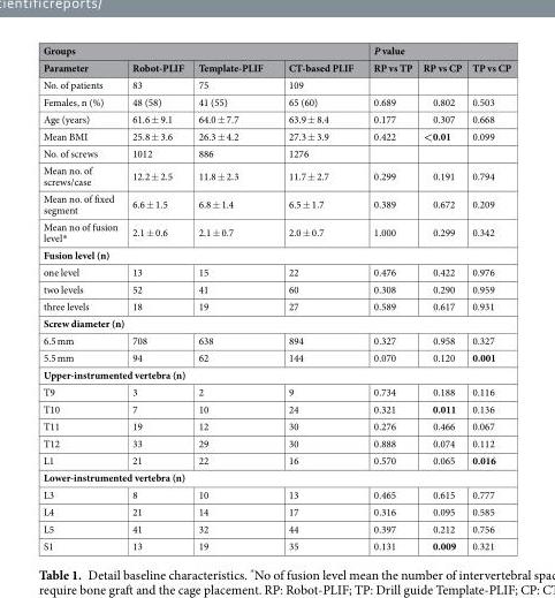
<table><thead><tr><td colspan="4">Groups</td><td colspan="3">P value</td></tr><tr><td>Parameter</td><td>Robot-PLIF</td><td>Template-PLIF</td><td>CT-based PLIF</td><td>RP vs TP</td><td>RP vs CP</td><td>TP vs CP</td></tr></thead><tbody><tr><td>No. of patients</td><td>83</td><td>75</td><td>109</td><td></td><td></td><td></td></tr><tr><td>Females, n (%)</td><td>48 (58)</td><td>41 (55)</td><td>65 (60)</td><td>0.689</td><td>0.802</td><td>0.503</td></tr><tr><td>Age (years)</td><td>61.6 ± 9.1</td><td>64.0 ± 7.7</td><td>63.9 ± 8.4</td><td>0.177</td><td>0.307</td><td>0.668</td></tr><tr><td>Mean BMI</td><td>25.8 ± 3.6</td><td>26.3 ± 4.2</td><td>27.3 ± 3.9</td><td>0.422</td><td>&lt;0.01</td><td>0.099</td></tr><tr><td>No. of screws</td><td>1012</td><td>886</td><td>1276</td><td></td><td></td><td></td></tr><tr><td>Mean no. of screws/case</td><td>12.2 ± 2.5</td><td>11.8 ± 2.3</td><td>11.7 ± 2.7</td><td>0.299</td><td>0.191</td><td>0.794</td></tr><tr><td>Mean no. of fixed segment</td><td>6.6 ± 1.5</td><td>6.8 ± 1.4</td><td>6.5 ± 1.7</td><td>0.389</td><td>0.672</td><td>0.209</td></tr><tr><td>Mean no of fusion level*</td><td>2.1 ± 0.6</td><td>2.1 ± 0.7</td><td>2.0 ± 0.7</td><td>1.000</td><td>0.299</td><td>0.342</td></tr><tr><td colspan="7">Fusion level (n)</td></tr><tr><td>one level</td><td>13</td><td>15</td><td>22</td><td>0.476</td><td>0.422</td><td>0.976</td></tr><tr><td>two levels</td><td>52</td><td>41</td><td>60</td><td>0.308</td><td>0.290</td><td>0.959</td></tr><tr><td>three levels</td><td>18</td><td>19</td><td>27</td><td>0.589</td><td>0.617</td><td>0.931</td></tr><tr><td colspan="7">Screw diameter (n)</td></tr><tr><td>6.5 mm</td><td>708</td><td>638</td><td>894</td><td>0.327</td><td>0.958</td><td>0.327</td></tr><tr><td>5.5 mm</td><td>94</td><td>62</td><td>144</td><td>0.070</td><td>0.120</td><td>0.001</td></tr><tr><td colspan="7">Upper-instrumented vertebra (n)</td></tr><tr><td>T9</td><td>3</td><td>2</td><td>9</td><td>0.734</td><td>0.188</td><td>0.116</td></tr><tr><td>T10</td><td>7</td><td>10</td><td>24</td><td>0.321</td><td>0.011</td><td>0.136</td></tr><tr><td>T11</td><td>19</td><td>12</td><td>30</td><td>0.276</td><td>0.466</td><td>0.067</td></tr><tr><td>T12</td><td>33</td><td>29</td><td>30</td><td>0.888</td><td>0.074</td><td>0.112</td></tr><tr><td>L1</td><td>21</td><td>22</td><td>16</td><td>0.570</td><td>0.065</td><td>0.016</td></tr><tr><td colspan="7">Lower-instrumented vertebra (n)</td></tr><tr><td>L3</td><td>8</td><td>10</td><td>13</td><td>0.465</td><td>0.615</td><td>0.777</td></tr><tr><td>L4</td><td>21</td><td>14</td><td>17</td><td>0.316</td><td>0.095</td><td>0.585</td></tr><tr><td>L5</td><td>41</td><td>32</td><td>44</td><td>0.397</td><td>0.212</td><td>0.756</td></tr><tr><td>S1</td><td>13</td><td>19</td><td>35</td><td>0.131</td><td>0.009</td><td>0.321</td></tr></tbody></table>